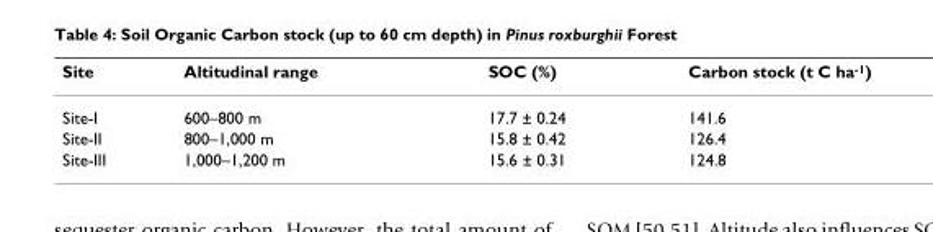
<table><thead><tr><td>Site</td><td>Altitudinal range</td><td>SOC (%)</td><td>Carbon stock (t C ha<sup>-1</sup>)</td></tr></thead><tbody><tr><td>Site-I</td><td>600–800 m</td><td>17.7 ± 0.24</td><td>141.6</td></tr><tr><td>Site-II</td><td>800–1,000 m</td><td>15.8 ± 0.42</td><td>126.4</td></tr><tr><td>Site-III</td><td>1,000–1,200 m</td><td>15.6 ± 0.31</td><td>124.8</td></tr></tbody></table>